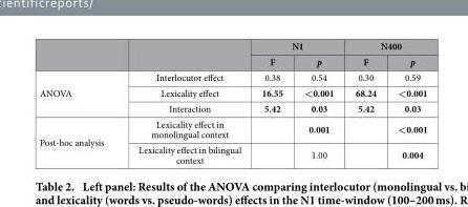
<table><thead><tr><td rowspan="2"></td><td rowspan="2"></td><td colspan="2">N1</td><td colspan="2">N400</td></tr><tr><td>F</td><td>p</td><td>F</td><td>p</td></tr></thead><tbody><tr><td rowspan="3">ANOVA</td><td>Interlocutor effect</td><td>0.38</td><td>0.54</td><td>0.30</td><td>0.59</td></tr><tr><td>Lexicality effect</td><td>16.55</td><td>&lt;0.001</td><td>68.24</td><td>&lt;0.001</td></tr><tr><td>Interaction</td><td>5.42</td><td>0.03</td><td>5.42</td><td>0.03</td></tr><tr><td rowspan="2">Post-hoc analysis</td><td>Lexicality effect in monolingual context</td><td></td><td>0.001</td><td></td><td>&lt;0.001</td></tr><tr><td>Lexicality effect in bilingual context</td><td></td><td>1.00</td><td></td><td>0.004</td></tr></tbody></table>